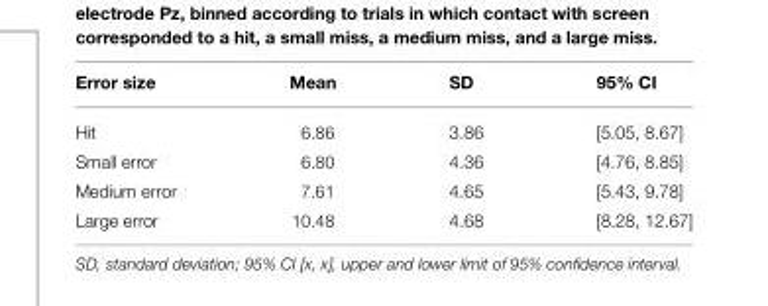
<table><thead><tr><td>Error size</td><td>Mean</td><td>SD</td><td>95% CI</td></tr></thead><tbody><tr><td>Hit</td><td>6.86</td><td>3.86</td><td>[5.05, 8.67]</td></tr><tr><td>Small error</td><td>6.80</td><td>4.36</td><td>[4.76, 8.85]</td></tr><tr><td>Medium error</td><td>7.61</td><td>4.65</td><td>[5.43, 9.78]</td></tr><tr><td>Large error</td><td>10.48</td><td>4.68</td><td>[8.28, 12.67]</td></tr></tbody></table>